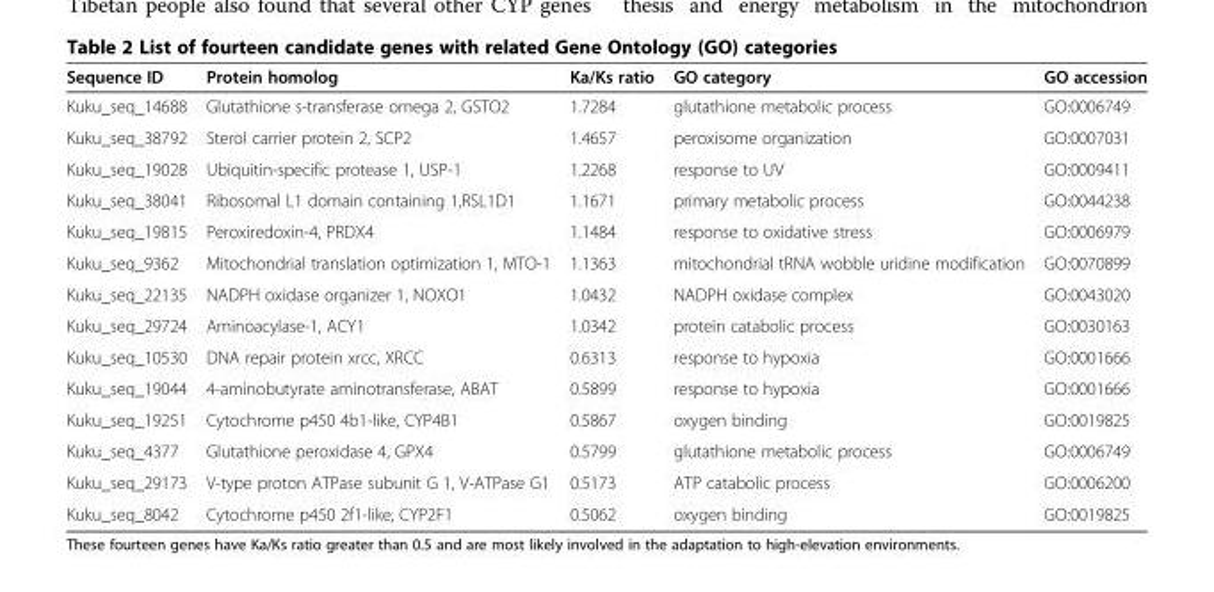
<table><thead><tr><td>Sequence ID</td><td>Protein homolog</td><td>Ka/Ks ratio</td><td>GO category</td><td>GO accession</td></tr></thead><tbody><tr><td>Kuku_seq_14688</td><td>Glutathione s-transferase omega 2, GSTO2</td><td>1.7284</td><td>glutathione metabolic process</td><td>GO:0006749</td></tr><tr><td>Kuku_seq_38792</td><td>Sterol carrier protein 2, SCP2</td><td>1.4657</td><td>peroxisome organization</td><td>GO:0007031</td></tr><tr><td>Kuku_seq_19028</td><td>Ubiquitin-specific protease 1, USP-1</td><td>1.2268</td><td>response to UV</td><td>GO:0009411</td></tr><tr><td>Kuku_seq_38041</td><td>Ribosomal L1 domain containing 1,RSL1D1</td><td>1.1671</td><td>primary metabolic process</td><td>GO:0044238</td></tr><tr><td>Kuku_seq_19815</td><td>Peroxiredoxin-4, PRDX4</td><td>1.1484</td><td>response to oxidative stress</td><td>GO:0006979</td></tr><tr><td>Kuku_seq_9362</td><td>Mitochondrial translation optimization 1, MTO-1</td><td>1.1363</td><td>mitochondrial tRNA wobble uridine modification</td><td>GO:0070899</td></tr><tr><td>Kuku_seq_22135</td><td>NADPH oxidase organizer 1, NOXO1</td><td>1.0432</td><td>NADPH oxidase complex</td><td>GO:0043020</td></tr><tr><td>Kuku_seq_29724</td><td>Aminoacylase-1, ACY1</td><td>1.0342</td><td>protein catabolic process</td><td>GO:0030163</td></tr><tr><td>Kuku_seq_10530</td><td>DNA repair protein xrcc, XRCC</td><td>0.6313</td><td>response to hypoxia</td><td>GO:0001666</td></tr><tr><td>Kuku_seq_19044</td><td>4-aminobutyrate aminotransferase, ABAT</td><td>0.5899</td><td>response to hypoxia</td><td>GO:0001666</td></tr><tr><td>Kuku_seq_19251</td><td>Cytochrome p450 4b1-like, CYP4B1</td><td>0.5867</td><td>oxygen binding</td><td>GO:0019825</td></tr><tr><td>Kuku_seq_4377</td><td>Glutathione peroxidase 4, GPX4</td><td>0.5799</td><td>glutathione metabolic process</td><td>GO:0006749</td></tr><tr><td>Kuku_seq_29173</td><td>V-type proton ATPase subunit G 1, V-ATPase G1</td><td>0.5173</td><td>ATP catabolic process</td><td>GO:0006200</td></tr><tr><td>Kuku_seq_8042</td><td>Cytochrome p450 2f1-like, CYP2F1</td><td>0.5062</td><td>oxygen binding</td><td>GO:0019825</td></tr></tbody></table>